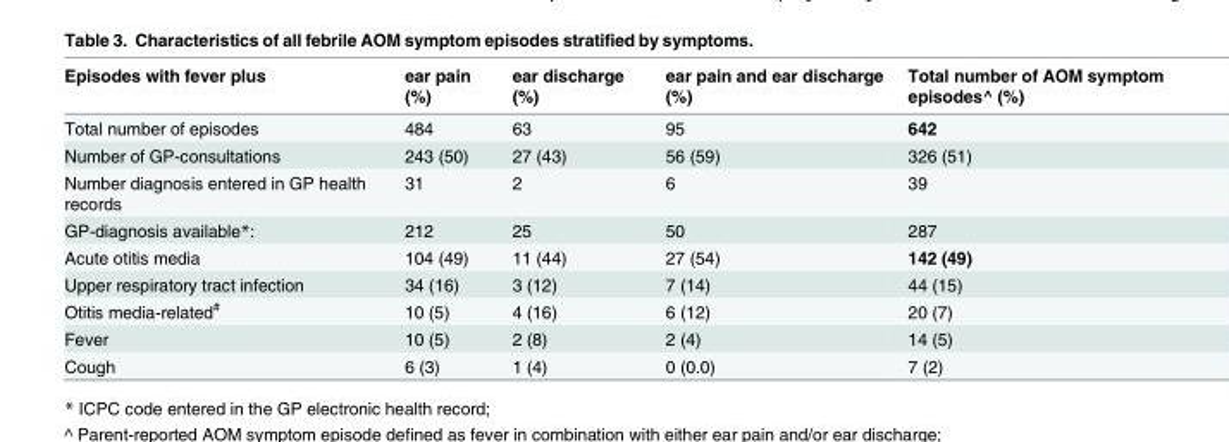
<table><thead><tr><td>Episodes with fever plus</td><td>ear pain (%)</td><td>ear discharge (%)</td><td>ear pain and ear discharge (%)</td><td>Total number of AOM symptom episodes^ (%)</td></tr></thead><tbody><tr><td>Total number of episodes</td><td>484</td><td>63</td><td>95</td><td>642</td></tr><tr><td>Number of GP-consultations</td><td>243 (50)</td><td>27 (43)</td><td>56 (59)</td><td>326 (51)</td></tr><tr><td>Number diagnosis entered in GP health records</td><td>31</td><td>2</td><td>6</td><td>39</td></tr><tr><td>GP-diagnosis available*:</td><td>212</td><td>25</td><td>50</td><td>287</td></tr><tr><td>Acute otitis media</td><td>104 (49)</td><td>11 (44)</td><td>27 (54)</td><td>142 (49)</td></tr><tr><td>Upper respiratory tract infection</td><td>34 (16)</td><td>3 (12)</td><td>7 (14)</td><td>44 (15)</td></tr><tr><td>Otitis media-related<sup>#</sup></td><td>10 (5)</td><td>4 (16)</td><td>6 (12)</td><td>20 (7)</td></tr><tr><td>Fever</td><td>10 (5)</td><td>2 (8)</td><td>2 (4)</td><td>14 (5)</td></tr><tr><td>Cough</td><td>6 (3)</td><td>1 (4)</td><td>0 (0.0)</td><td>7 (2)</td></tr></tbody></table>